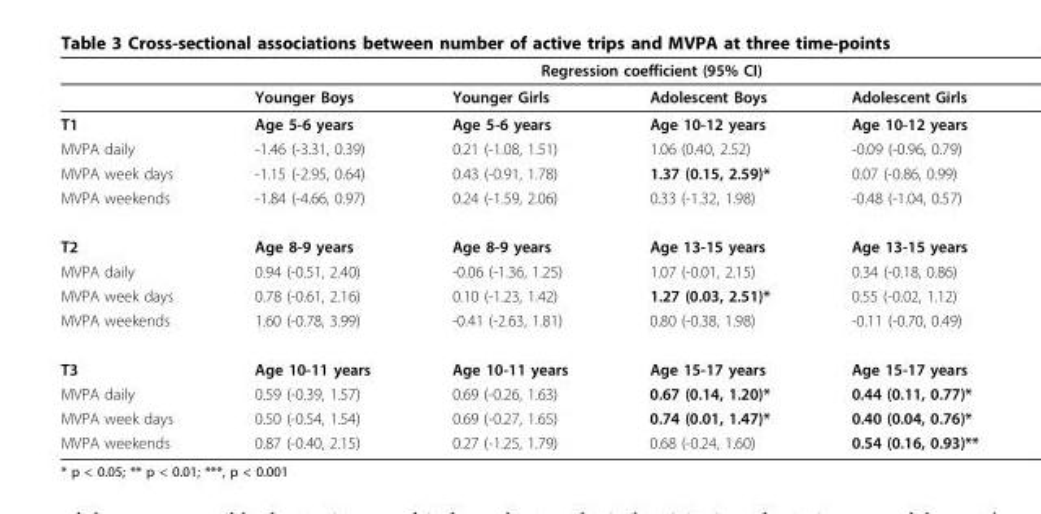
<table><thead><tr><td rowspan="2"></td><td colspan="4">Regression coefficient (95% CI)</td></tr><tr><td>Younger Boys</td><td>Younger Girls</td><td>Adolescent Boys</td><td>Adolescent Girls</td></tr></thead><tbody><tr><td>T1</td><td>Age 5-6 years</td><td>Age 5-6 years</td><td>Age 10-12 years</td><td>Age 10-12 years</td></tr><tr><td>MVPA daily</td><td>-1.46 (-3.31, 0.39)</td><td>0.21 (-1.08, 1.51)</td><td>1.06 (0.40, 2.52)</td><td>-0.09 (-0.96, 0.79)</td></tr><tr><td>MVPA week days</td><td>-1.15 (-2.95, 0.64)</td><td>0.43 (-0.91, 1.78)</td><td>1.37 (0.15, 2.59)*</td><td>0.07 (-0.86, 0.99)</td></tr><tr><td>MVPA weekends</td><td>-1.84 (-4.66, 0.97)</td><td>0.24 (-1.59, 2.06)</td><td>0.33 (-1.32, 1.98)</td><td>-0.48 (-1.04, 0.57)</td></tr><tr><td>T2</td><td>Age 8-9 years</td><td>Age 8-9 years</td><td>Age 13-15 years</td><td>Age 13-15 years</td></tr><tr><td>MVPA daily</td><td>0.94 (-0.51, 2.40)</td><td>-0.06 (-1.36, 1.25)</td><td>1.07 (-0.01, 2.15)</td><td>0.34 (-0.18, 0.86)</td></tr><tr><td>MVPA week days</td><td>0.78 (-0.61, 2.16)</td><td>0.10 (-1.23, 1.42)</td><td>1.27 (0.03, 2.51)*</td><td>0.55 (-0.02, 1.12)</td></tr><tr><td>MVPA weekends</td><td>1.60 (-0.78, 3.99)</td><td>-0.41 (-2.63, 1.81)</td><td>0.80 (-0.38, 1.98)</td><td>-0.11 (-0.70, 0.49)</td></tr><tr><td>T3</td><td>Age 10-11 years</td><td>Age 10-11 years</td><td>Age 15-17 years</td><td>Age 15-17 years</td></tr><tr><td>MVPA daily</td><td>0.59 (-0.39, 1.57)</td><td>0.69 (-0.26, 1.63)</td><td>0.67 (0.14, 1.20)*</td><td>0.44 (0.11, 0.77)*</td></tr><tr><td>MVPA week days</td><td>0.50 (-0.54, 1.54)</td><td>0.69 (-0.27, 1.65)</td><td>0.74 (0.01, 1.47)*</td><td>0.40 (0.04, 0.76)*</td></tr><tr><td>MVPA weekends</td><td>0.87 (-0.40, 2.15)</td><td>0.27 (-1.25, 1.79)</td><td>0.68 (-0.24, 1.60)</td><td>0.54 (0.16, 0.93)**</td></tr></tbody></table>